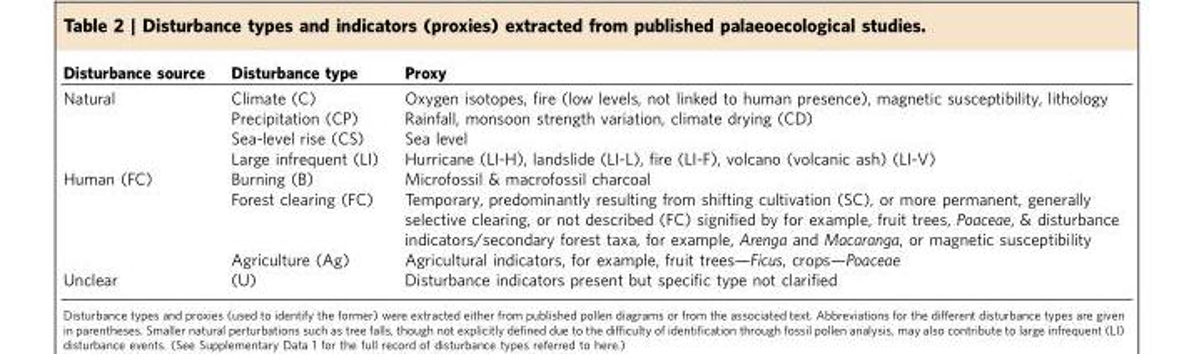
<table><thead><tr><td>Disturbance source</td><td>Disturbance type</td><td>Proxy</td></tr></thead><tbody><tr><td rowspan="2">Natural</td><td>Climate (C) Precipitation (CP) Sea-level rise (CS)</td><td>Oxygen isotopes, fire (low levels, not linked to human presence), magnetic susceptibility, lithology Rainfall, monsoon strength variation, climate drying (CD) Sea level</td></tr><tr><td>Large infrequent (LI)</td><td>Hurricane (LI-H), landslide (LI-L), fire (LI-F), volcano (volcanic ash) (LI-V)</td></tr><tr><td rowspan="3">Human (FC)</td><td>Burning (B)</td><td>Microfossil &amp; macrofossil charcoal</td></tr><tr><td>Forest clearing (FC)</td><td>Temporary, predominantly resulting from shifting cultivation (SC), or more permanent, generally selective clearing, or not described (FC) signified by for example, fruit trees, Poaceae, &amp; disturbance indicators/secondary forest taxa, for example, Arenga and Macaranga, or magnetic susceptibility</td></tr><tr><td>Agriculture (Ag)</td><td>Agricultural indicators, for example, fruit trees—Ficus, crops—Poaceae</td></tr><tr><td>Unclear</td><td>(U)</td><td>Disturbance indicators present but specific type not clarified</td></tr></tbody></table>